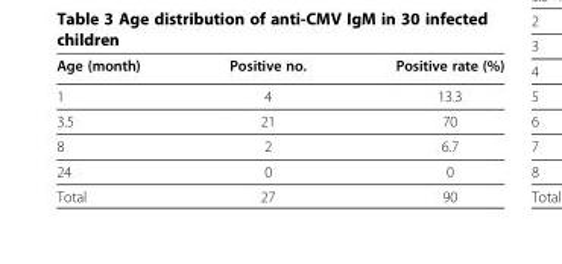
<table><thead><tr><td>Age (month)</td><td>Positive no.</td><td>Positive rate (%)</td></tr></thead><tbody><tr><td>1</td><td>4</td><td>13.3</td></tr><tr><td>3.5</td><td>21</td><td>70</td></tr><tr><td>8</td><td>2</td><td>6.7</td></tr><tr><td>24</td><td>0</td><td>0</td></tr><tr><td>Total</td><td>27</td><td>90</td></tr></tbody></table>